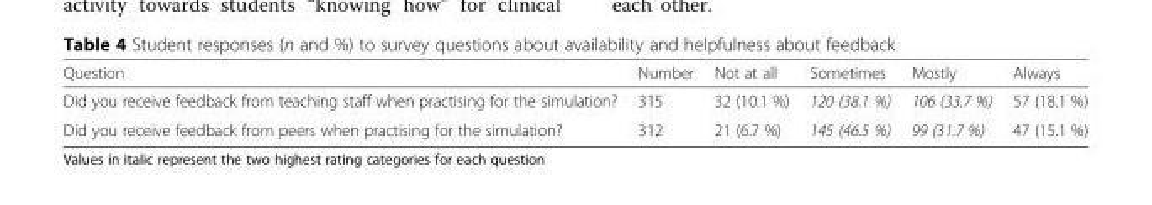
<table><thead><tr><td>Question</td><td>Number</td><td>Not at all</td><td>Sometimes</td><td>Mostly</td><td>Always</td></tr></thead><tbody><tr><td>Did you receive feedback from teaching staff when practising for the simulation?</td><td>315</td><td>32 (10.1 %)</td><td>120 (38.1 %)</td><td>106 (33.7 %)</td><td>57 (18.1 %)</td></tr><tr><td>Did you receive feedback from peers when practising for the simulation?</td><td>312</td><td>21 (6.7 %)</td><td>145 (46.5 %)</td><td>99 (31.7 %)</td><td>47 (15.1 %)</td></tr></tbody></table>